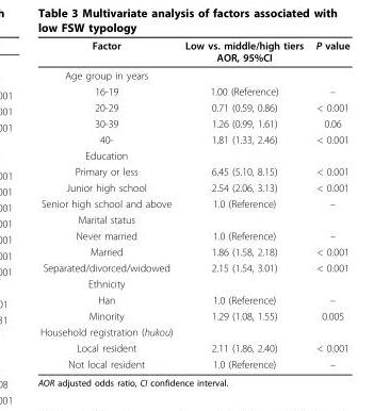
<table><thead><tr><td>Factor</td><td>Low vs. middle/high tiers AOR, 95%CI</td><td>P value</td></tr></thead><tbody><tr><td colspan="3">Age group in years</td></tr><tr><td>16-19</td><td>1.00 (Reference)</td><td>–</td></tr><tr><td>20-29</td><td>0.71 (0.59, 0.86)</td><td>&lt; 0.001</td></tr><tr><td>30-39</td><td>1.26 (0.99, 1.61)</td><td>0.06</td></tr><tr><td>40-</td><td>1.81 (1.33, 2.46)</td><td>&lt; 0.001</td></tr><tr><td colspan="3">Education</td></tr><tr><td>Primary or less</td><td>6.45 (5.10, 8.15)</td><td>&lt; 0.001</td></tr><tr><td>Junior high school</td><td>2.54 (2.06, 3.13)</td><td>&lt; 0.001</td></tr><tr><td>Senior high school and above</td><td>1.0 (Reference)</td><td>–</td></tr><tr><td colspan="3">Marital status</td></tr><tr><td>Never married</td><td>1.0 (Reference)</td><td>–</td></tr><tr><td>Married</td><td>1.86 (1.58, 2.18)</td><td>&lt; 0.001</td></tr><tr><td>Separated/divorced/widowed</td><td>2.15 (1.54, 3.01)</td><td>&lt; 0.001</td></tr><tr><td colspan="3">Ethnicity</td></tr><tr><td>Han</td><td>1.0 (Reference)</td><td>–</td></tr><tr><td>Minority</td><td>1.29 (1.08, 1.55)</td><td>0.005</td></tr><tr><td colspan="3">Household registration (hukou)</td></tr><tr><td>Local resident</td><td>2.11 (1.86, 2.40)</td><td>&lt; 0.001</td></tr><tr><td>Not local resident</td><td>1.0 (Reference)</td><td>–</td></tr></tbody></table>